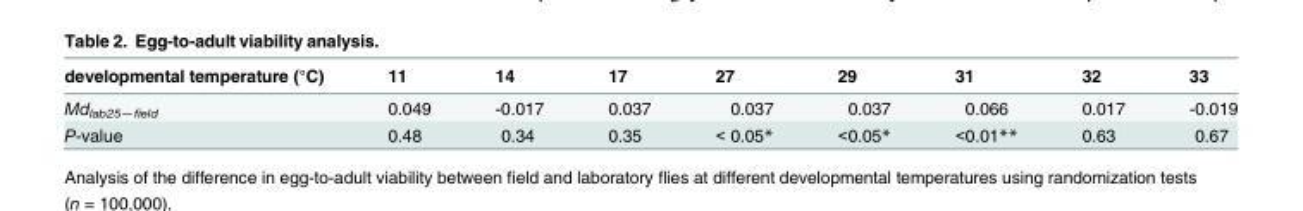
<table><thead><tr><td>developmental temperature (°C)</td><td>11</td><td>14</td><td>17</td><td>27</td><td>29</td><td>31</td><td>32</td><td>33</td></tr></thead><tbody><tr><td>Md<sub>lab25—field</sub></td><td>0.049</td><td>-0.017</td><td>0.037</td><td>0.037</td><td>0.037</td><td>0.066</td><td>0.017</td><td>-0.019</td></tr><tr><td>P-value</td><td>0.48</td><td>0.34</td><td>0.35</td><td>&lt; 0.05*</td><td>&lt;0.05*</td><td>&lt;0.01**</td><td>0.63</td><td>0.67</td></tr></tbody></table>